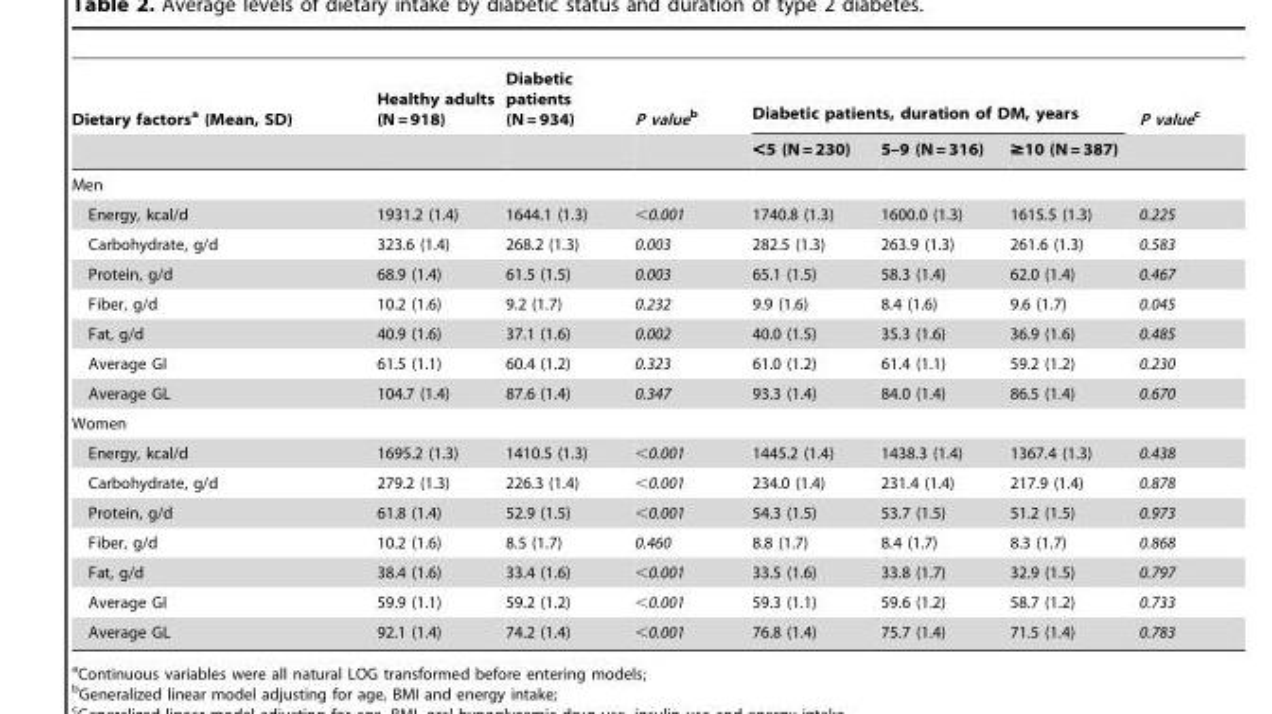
<table><thead><tr><td rowspan="2">Dietary factors<sup>a</sup> (Mean, SD)</td><td rowspan="2">Healthy adults (N = 918)</td><td rowspan="2">Diabetic patients (N = 934)</td><td rowspan="2">P valueb</td><td colspan="3">Diabetic patients, duration of DM, years</td><td rowspan="2">P valuec</td></tr><tr><td>&lt;5 (N = 230)</td><td>5–9 (N = 316)</td><td>≥10 (N = 387)</td></tr></thead><tbody><tr><td colspan="8">Men</td></tr><tr><td>Energy, kcal/d</td><td>1931.2 (1.4)</td><td>1644.1 (1.3)</td><td>&lt;0.001</td><td>1740.8 (1.3)</td><td>1600.0 (1.3)</td><td>1615.5 (1.3)</td><td>0.225</td></tr><tr><td>Carbohydrate, g/d</td><td>323.6 (1.4)</td><td>268.2 (1.3)</td><td>0.003</td><td>282.5 (1.3)</td><td>263.9 (1.3)</td><td>261.6 (1.3)</td><td>0.583</td></tr><tr><td>Protein, g/d</td><td>68.9 (1.4)</td><td>61.5 (1.5)</td><td>0.003</td><td>65.1 (1.5)</td><td>58.3 (1.4)</td><td>62.0 (1.4)</td><td>0.467</td></tr><tr><td>Fiber, g/d</td><td>10.2 (1.6)</td><td>9.2 (1.7)</td><td>0.232</td><td>9.9 (1.6)</td><td>8.4 (1.6)</td><td>9.6 (1.7)</td><td>0.045</td></tr><tr><td>Fat, g/d</td><td>40.9 (1.6)</td><td>37.1 (1.6)</td><td>0.002</td><td>40.0 (1.5)</td><td>35.3 (1.6)</td><td>36.9 (1.6)</td><td>0.485</td></tr><tr><td>Average GI</td><td>61.5 (1.1)</td><td>60.4 (1.2)</td><td>0.323</td><td>61.0 (1.2)</td><td>61.4 (1.1)</td><td>59.2 (1.2)</td><td>0.230</td></tr><tr><td>Average GL</td><td>104.7 (1.4)</td><td>87.6 (1.4)</td><td>0.347</td><td>93.3 (1.4)</td><td>84.0 (1.4)</td><td>86.5 (1.4)</td><td>0.670</td></tr><tr><td colspan="8">Women</td></tr><tr><td>Energy, kcal/d</td><td>1695.2 (1.3)</td><td>1410.5 (1.3)</td><td>&lt;0.001</td><td>1445.2 (1.4)</td><td>1438.3 (1.4)</td><td>1367.4 (1.3)</td><td>0.438</td></tr><tr><td>Carbohydrate, g/d</td><td>279.2 (1.3)</td><td>226.3 (1.4)</td><td>&lt;0.001</td><td>234.0 (1.4)</td><td>231.4 (1.4)</td><td>217.9 (1.4)</td><td>0.878</td></tr><tr><td>Protein, g/d</td><td>61.8 (1.4)</td><td>52.9 (1.5)</td><td>&lt;0.001</td><td>54.3 (1.5)</td><td>53.7 (1.5)</td><td>51.2 (1.5)</td><td>0.973</td></tr><tr><td>Fiber, g/d</td><td>10.2 (1.6)</td><td>8.5 (1.7)</td><td>0.460</td><td>8.8 (1.7)</td><td>8.4 (1.7)</td><td>8.3 (1.7)</td><td>0.868</td></tr><tr><td>Fat, g/d</td><td>38.4 (1.6)</td><td>33.4 (1.6)</td><td>&lt;0.001</td><td>33.5 (1.6)</td><td>33.8 (1.7)</td><td>32.9 (1.5)</td><td>0.797</td></tr><tr><td>Average GI</td><td>59.9 (1.1)</td><td>59.2 (1.2)</td><td>&lt;0.001</td><td>59.3 (1.1)</td><td>59.6 (1.2)</td><td>58.7 (1.2)</td><td>0.733</td></tr><tr><td>Average GL</td><td>92.1 (1.4)</td><td>74.2 (1.4)</td><td>&lt;0.001</td><td>76.8 (1.4)</td><td>75.7 (1.4)</td><td>71.5 (1.4)</td><td>0.783</td></tr></tbody></table>